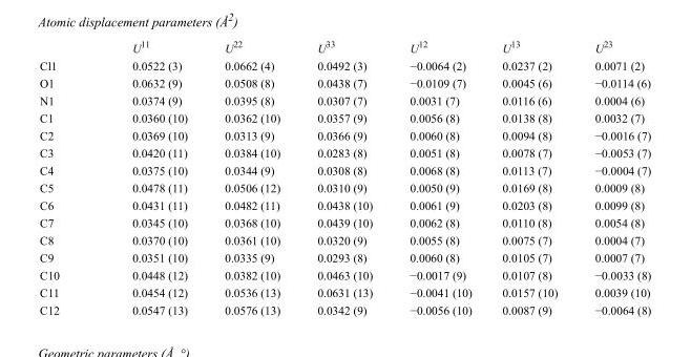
<table><thead><tr><td></td><td>U<sup>11</sup></td><td>U<sup>22</sup></td><td>U<sup>33</sup></td><td>U<sup>12</sup></td><td>U<sup>13</sup></td><td>U<sup>23</sup></td></tr></thead><tbody><tr><td>Cl1</td><td>0.0522 (3)</td><td>0.0662 (4)</td><td>0.0492 (3)</td><td>−0.0064 (2)</td><td>0.0237 (2)</td><td>0.0071 (2)</td></tr><tr><td>O1</td><td>0.0632 (9)</td><td>0.0508 (8)</td><td>0.0438 (7)</td><td>−0.0109 (7)</td><td>0.0045 (6)</td><td>−0.0114 (6)</td></tr><tr><td>N1</td><td>0.0374 (9)</td><td>0.0395 (8)</td><td>0.0307 (7)</td><td>0.0031 (7)</td><td>0.0116 (6)</td><td>0.0004 (6)</td></tr><tr><td>C1</td><td>0.0360 (10)</td><td>0.0362 (10)</td><td>0.0357 (9)</td><td>0.0056 (8)</td><td>0.0138 (8)</td><td>0.0032 (7)</td></tr><tr><td>C2</td><td>0.0369 (10)</td><td>0.0313 (9)</td><td>0.0366 (9)</td><td>0.0060 (8)</td><td>0.0094 (8)</td><td>−0.0016 (7)</td></tr><tr><td>C3</td><td>0.0420 (11)</td><td>0.0384 (10)</td><td>0.0283 (8)</td><td>0.0051 (8)</td><td>0.0078 (7)</td><td>−0.0053 (7)</td></tr><tr><td>C4</td><td>0.0375 (10)</td><td>0.0344 (9)</td><td>0.0308 (8)</td><td>0.0068 (8)</td><td>0.0113 (7)</td><td>−0.0004 (7)</td></tr><tr><td>C5</td><td>0.0478 (11)</td><td>0.0506 (12)</td><td>0.0310 (9)</td><td>0.0050 (9)</td><td>0.0169 (8)</td><td>0.0009 (8)</td></tr><tr><td>C6</td><td>0.0431 (11)</td><td>0.0482 (11)</td><td>0.0438 (10)</td><td>0.0061 (9)</td><td>0.0203 (8)</td><td>0.0099 (8)</td></tr><tr><td>C7</td><td>0.0345 (10)</td><td>0.0368 (10)</td><td>0.0439 (10)</td><td>0.0062 (8)</td><td>0.0110 (8)</td><td>0.0054 (8)</td></tr><tr><td>C8</td><td>0.0370 (10)</td><td>0.0361 (10)</td><td>0.0320 (9)</td><td>0.0055 (8)</td><td>0.0075 (7)</td><td>0.0004 (7)</td></tr><tr><td>C9</td><td>0.0351 (10)</td><td>0.0335 (9)</td><td>0.0293 (8)</td><td>0.0060 (8)</td><td>0.0105 (7)</td><td>0.0007 (7)</td></tr><tr><td>C10</td><td>0.0448 (12)</td><td>0.0382 (10)</td><td>0.0463 (10)</td><td>−0.0017 (9)</td><td>0.0107 (8)</td><td>−0.0033 (8)</td></tr><tr><td>C11</td><td>0.0454 (12)</td><td>0.0536 (13)</td><td>0.0631 (13)</td><td>−0.0041 (10)</td><td>0.0157 (10)</td><td>0.0039 (10)</td></tr><tr><td>C12</td><td>0.0547 (13)</td><td>0.0576 (13)</td><td>0.0342 (9)</td><td>−0.0056 (10)</td><td>0.0087 (9)</td><td>−0.0064 (8)</td></tr></tbody></table>